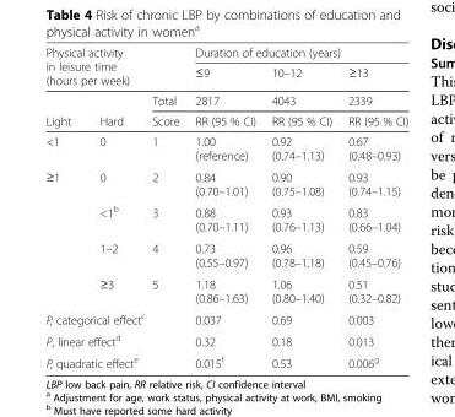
<table><thead><tr><td rowspan="2" colspan="2">Physical activity in leisure time (hours per week)</td><td rowspan="4">Total Score</td><td colspan="3">Duration of education (years)</td></tr><tr><td rowspan="3">≤9 2817 RR (95 % CI)</td><td rowspan="3">10–12 4043 RR (95 % CI)</td><td rowspan="3">≥13 2339 RR (95 % CI)</td></tr><tr><td rowspan="2">Light</td><td rowspan="2">Hard</td></tr><tr></tr></thead><tbody><tr><td>&lt;1</td><td>0</td><td>1</td><td>1.00 (reference)</td><td>0.92 (0.74–1.13)</td><td>0.67 (0.48–0.93)</td></tr><tr><td rowspan="4">≥1</td><td>0</td><td>2</td><td>0.84 (0.70–1.01)</td><td>0.90 (0.75–1.08)</td><td>0.93 (0.74–1.15)</td></tr><tr><td>&lt;1<sup>b</sup></td><td>3</td><td>0.88 (0.70–1.11)</td><td>0.93 (0.76–1.13)</td><td>0.83 (0.66–1.04)</td></tr><tr><td>1–2</td><td>4</td><td>0.73 (0.55–0.97)</td><td>0.96 (0.78–1.18)</td><td>0.59 (0.45–0.76)</td></tr><tr><td>≥3</td><td>5</td><td>1.18 (0.86–1.63)</td><td>1.06 (0.80–1.40)</td><td>0.51 (0.32–0.82)</td></tr><tr><td colspan="3">P, categorical effect<sup>c</sup></td><td>0.037</td><td>0.69</td><td>0.003</td></tr><tr><td colspan="3">P, linear effect<sup>d</sup></td><td>0.32</td><td>0.18</td><td>0.013</td></tr><tr><td colspan="3">P, quadratic effect<sup>e</sup></td><td>0.015<sup>f</sup></td><td>0.53</td><td>0.006<sup>g</sup></td></tr></tbody></table>